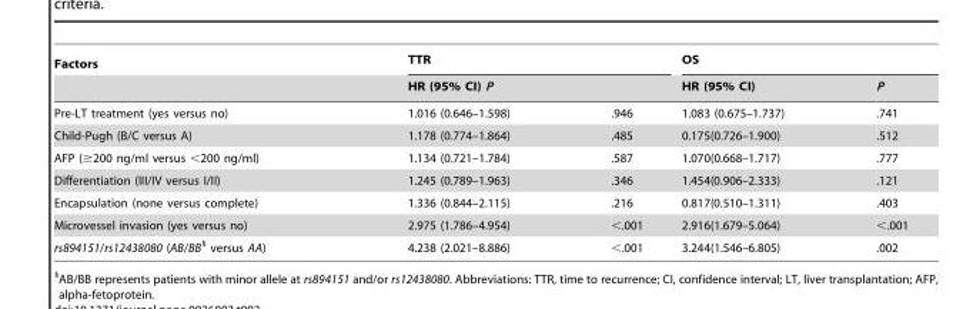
<table><thead><tr><td rowspan="3">Factors Pre-LT treatment (yes versus no)</td><td rowspan="2" colspan="2">TTR HR (95% CI) P</td><td colspan="2">OS</td></tr><tr><td rowspan="2">HR (95% CI) 1.083 (0.675–1.737)</td><td rowspan="2">P .741</td></tr><tr><td>1.016 (0.646–1.598)</td><td>.946</td></tr></thead><tbody><tr><td>Child-Pugh (B/C versus A)</td><td>1.178 (0.774–1.864)</td><td>.485</td><td>0.175(0.726–1.900)</td><td>.512</td></tr><tr><td>AFP (≥200 ng/ml versus &lt;200 ng/ml)</td><td>1.134 (0.721–1.784)</td><td>.587</td><td>1.070(0.668–1.717)</td><td>.777</td></tr><tr><td>Differentiation (III/IV versus I/II)</td><td>1.245 (0.789–1.963)</td><td>.346</td><td>1.454(0.906–2.333)</td><td>.121</td></tr><tr><td>Encapsulation (none versus complete)</td><td>1.336 (0.844–2.115)</td><td>.216</td><td>0.817(0.510–1.311)</td><td>.403</td></tr><tr><td>Microvessel invasion (yes versus no)</td><td>2.975 (1.786–4.954)</td><td>&lt;.001</td><td>2.916(1.679–5.064)</td><td>&lt;.001</td></tr><tr><td>rs894151/rs12438080 (AB/BB§ versus AA)</td><td>4.238 (2.021–8.886)</td><td>&lt;.001</td><td>3.244(1.546–6.805)</td><td>.002</td></tr></tbody></table>